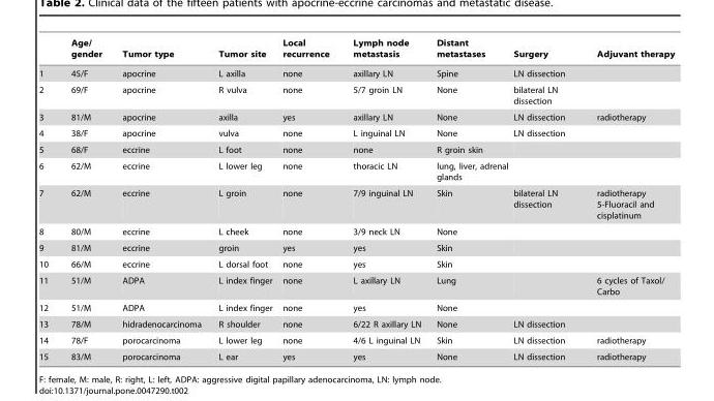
<table><thead><tr><td></td><td>Age/ gender</td><td>Tumor type</td><td>Tumor site</td><td>Local recurrence</td><td>Lymph node metastasis</td><td>Distant metastases</td><td>Surgery</td><td>Adjuvant therapy</td></tr></thead><tbody><tr><td>1</td><td>45/F</td><td>apocrine</td><td>L axilla</td><td>none</td><td>axillary LN</td><td>Spine</td><td>LN dissection</td><td></td></tr><tr><td>2</td><td>69/F</td><td>apocrine</td><td>R vulva</td><td>none</td><td>5/7 groin LN</td><td>None</td><td>bilateral LN dissection</td><td></td></tr><tr><td>3</td><td>81/M</td><td>apocrine</td><td>axilla</td><td>yes</td><td>axillary LN</td><td>None</td><td>LN dissection</td><td>radiotherapy</td></tr><tr><td>4</td><td>38/F</td><td>apocrine</td><td>vulva</td><td>none</td><td>L inguinal LN</td><td>None</td><td>LN dissection</td><td></td></tr><tr><td>5</td><td>68/F</td><td>eccrine</td><td>L foot</td><td>none</td><td>none</td><td>R groin skin</td><td></td><td></td></tr><tr><td>6</td><td>62/M</td><td>eccrine</td><td>L lower leg</td><td>none</td><td>thoracic LN</td><td>lung, liver, adrenal glands</td><td></td><td></td></tr><tr><td>7</td><td>62/M</td><td>eccrine</td><td>L groin</td><td>none</td><td>7/9 inguinal LN</td><td>Skin</td><td>bilateral LN dissection</td><td>radiotherapy 5-Fluoracil and cisplatinum</td></tr><tr><td>8</td><td>80/M</td><td>eccrine</td><td>L cheek</td><td>none</td><td>3/9 neck LN</td><td>None</td><td></td><td></td></tr><tr><td>9</td><td>81/M</td><td>eccrine</td><td>groin</td><td>yes</td><td>yes</td><td>Skin</td><td></td><td></td></tr><tr><td>10</td><td>66/M</td><td>eccrine</td><td>L dorsal foot</td><td>none</td><td>yes</td><td>Skin</td><td></td><td></td></tr><tr><td>11</td><td>51/M</td><td>ADPA</td><td>L index finger</td><td>none</td><td>L axillary LN</td><td>Lung</td><td></td><td>6 cycles of Taxol/ Carbo</td></tr><tr><td>12</td><td>51/M</td><td>ADPA</td><td>L index finger</td><td>none</td><td>yes</td><td>None</td><td></td><td></td></tr><tr><td>13</td><td>78/M</td><td>hidradenocarcinoma</td><td>R shoulder</td><td>none</td><td>6/22 R axillary LN</td><td>None</td><td>LN dissection</td><td></td></tr><tr><td>14</td><td>78/F</td><td>porocarcinoma</td><td>L lower leg</td><td>none</td><td>4/6 L inguinal LN</td><td>Skin</td><td>LN dissection</td><td>radiotherapy</td></tr><tr><td>15</td><td>83/M</td><td>porocarcinoma</td><td>L ear</td><td>yes</td><td>yes</td><td>None</td><td>LN dissection</td><td>radiotherapy</td></tr></tbody></table>